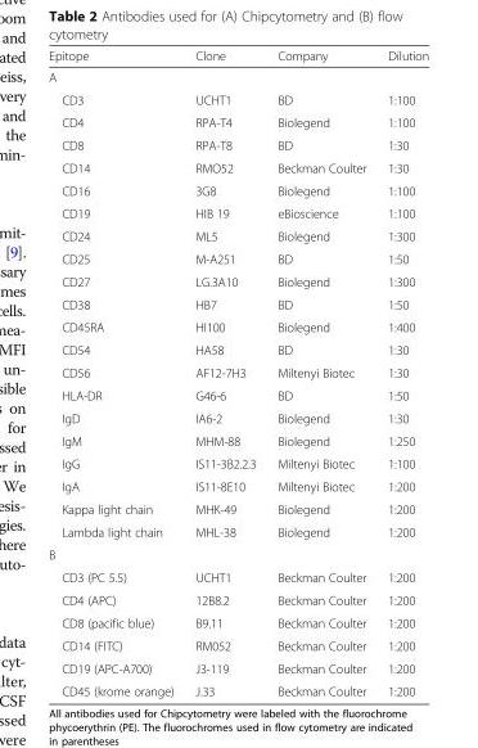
<table><thead><tr><td>Epitope</td><td>Clone</td><td>Company</td><td>Dilution</td></tr></thead><tbody><tr><td colspan="4">A</td></tr><tr><td>CD3</td><td>UCHT1</td><td>BD</td><td>1:100</td></tr><tr><td>CD4</td><td>RPA-T4</td><td>Biolegend</td><td>1:100</td></tr><tr><td>CD8</td><td>RPA-T8</td><td>BD</td><td>1:30</td></tr><tr><td>CD14</td><td>RMO52</td><td>Beckman Coulter</td><td>1:30</td></tr><tr><td>CD16</td><td>3G8</td><td>Biolegend</td><td>1:100</td></tr><tr><td>CD19</td><td>HIB 19</td><td>eBioscience</td><td>1:100</td></tr><tr><td>CD24</td><td>ML5</td><td>Biolegend</td><td>1:300</td></tr><tr><td>CD25</td><td>M-A251</td><td>BD</td><td>1:50</td></tr><tr><td>CD27</td><td>LG.3A10</td><td>Biolegend</td><td>1:300</td></tr><tr><td>CD38</td><td>HB7</td><td>BD</td><td>1:50</td></tr><tr><td>CD45RA</td><td>HI100</td><td>Biolegend</td><td>1:400</td></tr><tr><td>CD54</td><td>HA58</td><td>BD</td><td>1:30</td></tr><tr><td>CD56</td><td>AF12-7H3</td><td>Miltenyi Biotec</td><td>1:30</td></tr><tr><td>HLA-DR</td><td>G46-6</td><td>BD</td><td>1:50</td></tr><tr><td>IgD</td><td>IA6-2</td><td>Biolegend</td><td>1:30</td></tr><tr><td>IgM</td><td>MHM-88</td><td>Biolegend</td><td>1:250</td></tr><tr><td>IgG</td><td>IS11-3B2.2.3</td><td>Miltenyi Biotec</td><td>1:100</td></tr><tr><td>IgA</td><td>IS11-8E10</td><td>Miltenyi Biotec</td><td>1:200</td></tr><tr><td>Kappa light chain</td><td>MHK-49</td><td>Biolegend</td><td>1:200</td></tr><tr><td>Lambda light chain</td><td>MHL-38</td><td>Biolegend</td><td>1:200</td></tr><tr><td colspan="4">B</td></tr><tr><td>CD3 (PC 5.5)</td><td>UCHT1</td><td>Beckman Coulter</td><td>1:200</td></tr><tr><td>CD4 (APC)</td><td>12B8.2</td><td>Beckman Coulter</td><td>1:200</td></tr><tr><td>CD8 (pacific blue)</td><td>B9.11</td><td>Beckman Coulter</td><td>1:200</td></tr><tr><td>CD14 (FITC)</td><td>RM052</td><td>Beckman Coulter</td><td>1:200</td></tr><tr><td>CD19 (APC-A700)</td><td>J3-119</td><td>Beckman Coulter</td><td>1:200</td></tr><tr><td>CD45 (krome orange)</td><td>J.33</td><td>Beckman Coulter</td><td>1:200</td></tr></tbody></table>